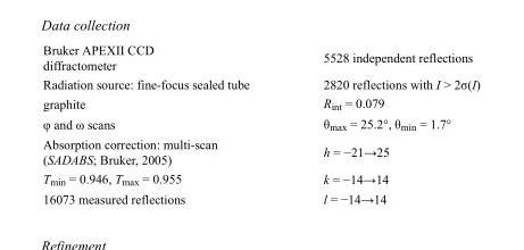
<table><tbody><tr><td>Bruker APEXII CCD diffractometer</td><td>5528 independent reflections</td></tr><tr><td>Radiation source: fine-focus sealed tube</td><td>2820 reflections with I &gt; 2σ(I)</td></tr><tr><td>graphite</td><td>R<sub>int</sub> = 0.079</td></tr><tr><td>φ and ω scans</td><td>θ<sub>max</sub> = 25.2°, θ<sub>min</sub> = 1.7°</td></tr><tr><td>Absorption correction: multi-scan (SADABS; Bruker, 2005)</td><td>h = −21→25</td></tr><tr><td>T<sub>min</sub> = 0.946, T<sub>max</sub> = 0.955</td><td>k = −14→14</td></tr><tr><td>16073 measured reflections</td><td>l = −14→14</td></tr></tbody></table>